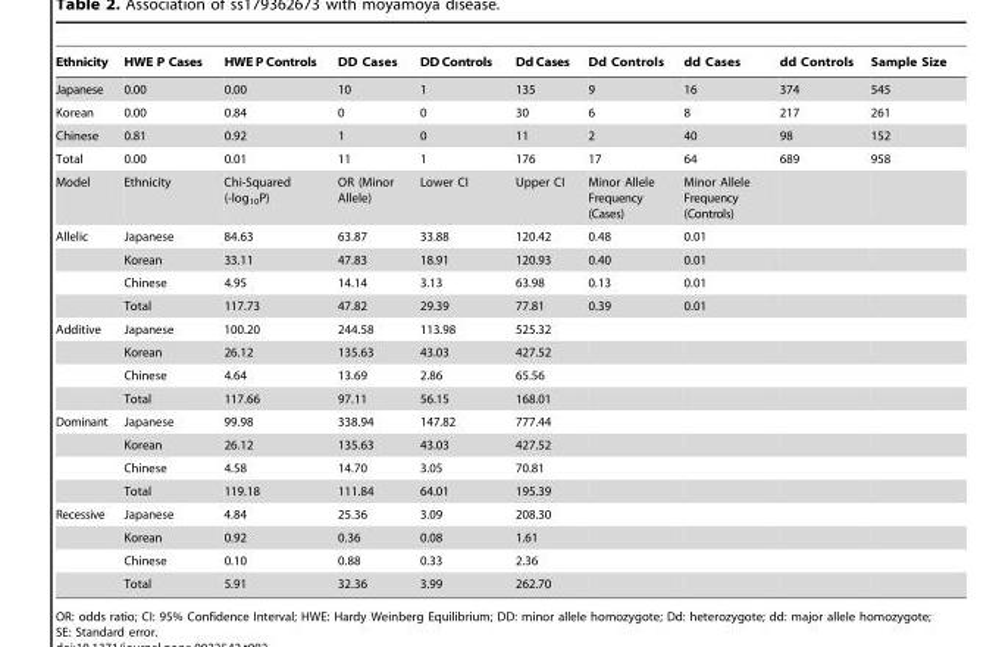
<table><thead><tr><td>Ethnicity</td><td>HWE P Cases</td><td>HWE P Controls</td><td>DD Cases</td><td>DD Controls</td><td>Dd Cases</td><td>Dd Controls</td><td>dd Cases</td><td>dd Controls</td><td>Sample Size</td></tr></thead><tbody><tr><td>Japanese</td><td>0.00</td><td>0.00</td><td>10</td><td>1</td><td>135</td><td>9</td><td>16</td><td>374</td><td>545</td></tr><tr><td>Korean</td><td>0.00</td><td>0.84</td><td>0</td><td>0</td><td>30</td><td>6</td><td>8</td><td>217</td><td>261</td></tr><tr><td>Chinese</td><td>0.81</td><td>0.92</td><td>1</td><td>0</td><td>11</td><td>2</td><td>40</td><td>98</td><td>152</td></tr><tr><td>Total</td><td>0.00</td><td>0.01</td><td>11</td><td>1</td><td>176</td><td>17</td><td>64</td><td>689</td><td>958</td></tr><tr><td>Model</td><td>Ethnicity</td><td>Chi-Squared (-log<sub>10</sub>P)</td><td>OR (Minor Allele)</td><td>Lower CI</td><td>Upper CI</td><td>Minor Allele Frequency (Cases)</td><td>Minor Allele Frequency (Controls)</td><td></td><td></td></tr><tr><td rowspan="4">Allelic</td><td>Japanese</td><td>84.63</td><td>63.87</td><td>33.88</td><td>120.42</td><td>0.48</td><td>0.01</td><td></td><td></td></tr><tr><td>Korean</td><td>33.11</td><td>47.83</td><td>18.91</td><td>120.93</td><td>0.40</td><td>0.01</td><td></td><td></td></tr><tr><td>Chinese</td><td>4.95</td><td>14.14</td><td>3.13</td><td>63.98</td><td>0.13</td><td>0.01</td><td></td><td></td></tr><tr><td>Total</td><td>117.73</td><td>47.82</td><td>29.39</td><td>77.81</td><td>0.39</td><td>0.01</td><td></td><td></td></tr><tr><td rowspan="4">Additive</td><td>Japanese</td><td>100.20</td><td>244.58</td><td>113.98</td><td>525.32</td><td></td><td></td><td></td><td></td></tr><tr><td>Korean</td><td>26.12</td><td>135.63</td><td>43.03</td><td>427.52</td><td></td><td></td><td></td><td></td></tr><tr><td>Chinese</td><td>4.64</td><td>13.69</td><td>2.86</td><td>65.56</td><td></td><td></td><td></td><td></td></tr><tr><td>Total</td><td>117.66</td><td>97.11</td><td>56.15</td><td>168.01</td><td></td><td></td><td></td><td></td></tr><tr><td rowspan="4">Dominant</td><td>Japanese</td><td>99.98</td><td>338.94</td><td>147.82</td><td>777.44</td><td></td><td></td><td></td><td></td></tr><tr><td>Korean</td><td>26.12</td><td>135.63</td><td>43.03</td><td>427.52</td><td></td><td></td><td></td><td></td></tr><tr><td>Chinese</td><td>4.58</td><td>14.70</td><td>3.05</td><td>70.81</td><td></td><td></td><td></td><td></td></tr><tr><td>Total</td><td>119.18</td><td>111.84</td><td>64.01</td><td>195.39</td><td></td><td></td><td></td><td></td></tr><tr><td rowspan="4">Recessive</td><td>Japanese</td><td>4.84</td><td>25.36</td><td>3.09</td><td>208.30</td><td></td><td></td><td></td><td></td></tr><tr><td>Korean</td><td>0.92</td><td>0.36</td><td>0.08</td><td>1.61</td><td></td><td></td><td></td><td></td></tr><tr><td>Chinese</td><td>0.10</td><td>0.88</td><td>0.33</td><td>2.36</td><td></td><td></td><td></td><td></td></tr><tr><td>Total</td><td>5.91</td><td>32.36</td><td>3.99</td><td>262.70</td><td></td><td></td><td></td><td></td></tr></tbody></table>